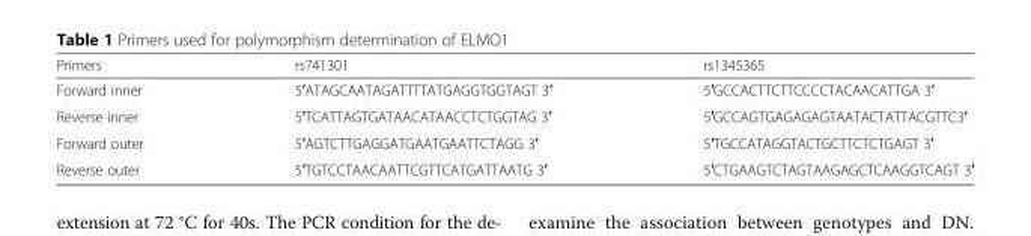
<table><thead><tr><td>Primers</td><td>rs741301</td><td>rs1345365</td></tr></thead><tbody><tr><td>Forward inner</td><td>5′ATAGCAATAGATTTTATGAGGTGGTAGT 3′</td><td>5′GCCACTTCTTCCCCTACAACATTGA 3′</td></tr><tr><td>Reverse inner</td><td>5′TCATTAGTGATAACATAACCTCTGGTAG 3′</td><td>5′GCCAGTGAGAGAGTAATACTATTACGTTC3′</td></tr><tr><td>Forward outer</td><td>5′AGTCTTGAGGATGAATGAATTCTAGG 3′</td><td>5′TGCCATAGGTACTGCTTCTCTGAGT 3′</td></tr><tr><td>Reverse outer</td><td>5′TGTCCTAACAATTCGTTCATGATTAATG 3′</td><td>5′CTGAAGTCTAGTAAGAGCTCAAGGTCAGT 3′</td></tr></tbody></table>